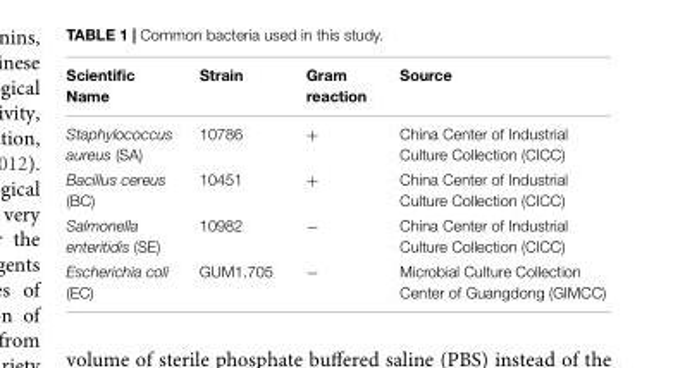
<table><thead><tr><td>Scientific Name</td><td>Strain</td><td>Gram reaction</td><td>Source</td></tr></thead><tbody><tr><td>Staphylococcus aureus (SA)</td><td>10786</td><td>+</td><td>China Center of Industrial Culture Collection (CICC)</td></tr><tr><td>Bacillus cereus (BC)</td><td>10451</td><td>+</td><td>China Center of Industrial Culture Collection (CICC)</td></tr><tr><td>Salmonella enteritidis (SE)</td><td>10982</td><td>−</td><td>China Center of Industrial Culture Collection (CICC)</td></tr><tr><td>Escherichia coli (EC)</td><td>GUM1.705</td><td>−</td><td>Microbial Culture Collection Center of Guangdong (GIMCC)</td></tr></tbody></table>